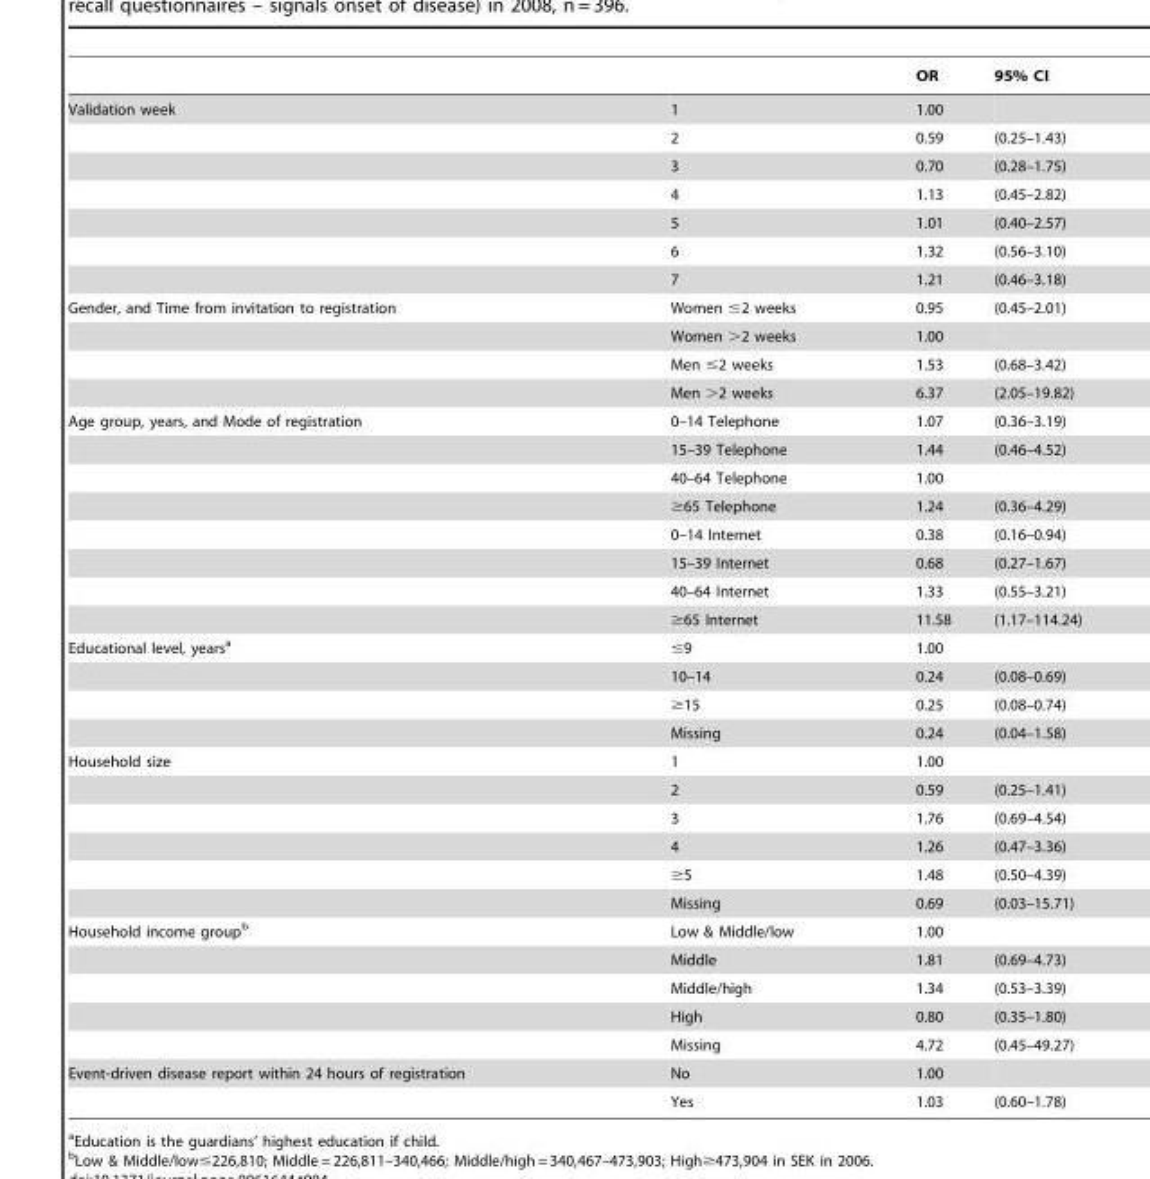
<table><thead><tr><td></td><td></td><td>OR</td><td>95% CI</td></tr></thead><tbody><tr><td rowspan="7">Validation week</td><td>1</td><td>1.00</td><td></td></tr><tr><td>2</td><td>0.59</td><td>(0.25–1.43)</td></tr><tr><td>3</td><td>0.70</td><td>(0.28–1.75)</td></tr><tr><td>4</td><td>1.13</td><td>(0.45–2.82)</td></tr><tr><td>5</td><td>1.01</td><td>(0.40–2.57)</td></tr><tr><td>6</td><td>1.32</td><td>(0.56–3.10)</td></tr><tr><td>7</td><td>1.21</td><td>(0.46–3.18)</td></tr><tr><td rowspan="4">Gender, and Time from invitation to registration</td><td>Women ≤2 weeks</td><td>0.95</td><td>(0.45–2.01)</td></tr><tr><td>Women &gt;2 weeks</td><td>1.00</td><td></td></tr><tr><td>Men ≤2 weeks</td><td>1.53</td><td>(0.68–3.42)</td></tr><tr><td>Men &gt;2 weeks</td><td>6.37</td><td>(2.05–19.82)</td></tr><tr><td rowspan="8">Age group, years, and Mode of registration</td><td>0–14 Telephone</td><td>1.07</td><td>(0.36–3.19)</td></tr><tr><td>15–39 Telephone</td><td>1.44</td><td>(0.46–4.52)</td></tr><tr><td>40–64 Telephone</td><td>1.00</td><td></td></tr><tr><td>≥65 Telephone</td><td>1.24</td><td>(0.36–4.29)</td></tr><tr><td>0–14 Internet</td><td>0.38</td><td>(0.16–0.94)</td></tr><tr><td>15–39 Internet</td><td>0.68</td><td>(0.27–1.67)</td></tr><tr><td>40–64 Internet</td><td>1.33</td><td>(0.55–3.21)</td></tr><tr><td>≥65 Internet</td><td>11.58</td><td>(1.17–114.24)</td></tr><tr><td rowspan="4">Educational level, years<sup>a</sup></td><td>≤9</td><td>1.00</td><td></td></tr><tr><td>10–14</td><td>0.24</td><td>(0.08–0.69)</td></tr><tr><td>≥15</td><td>0.25</td><td>(0.08–0.74)</td></tr><tr><td>Missing</td><td>0.24</td><td>(0.04–1.58)</td></tr><tr><td rowspan="6">Household size</td><td>1</td><td>1.00</td><td></td></tr><tr><td>2</td><td>0.59</td><td>(0.25–1.41)</td></tr><tr><td>3</td><td>1.76</td><td>(0.69–4.54)</td></tr><tr><td>4</td><td>1.26</td><td>(0.47–3.36)</td></tr><tr><td>≥5</td><td>1.48</td><td>(0.50–4.39)</td></tr><tr><td>Missing</td><td>0.69</td><td>(0.03–15.71)</td></tr><tr><td rowspan="5">Household income group<sup>b</sup></td><td>Low &amp; Middle/low</td><td>1.00</td><td></td></tr><tr><td>Middle</td><td>1.81</td><td>(0.69–4.73)</td></tr><tr><td>Middle/high</td><td>1.34</td><td>(0.53–3.39)</td></tr><tr><td>High</td><td>0.80</td><td>(0.35–1.80)</td></tr><tr><td>Missing</td><td>4.72</td><td>(0.45–49.27)</td></tr><tr><td rowspan="2">Event-driven disease report within 24 hours of registration</td><td>No</td><td>1.00</td><td></td></tr><tr><td>Yes</td><td>1.03</td><td>(0.60–1.78)</td></tr></tbody></table>